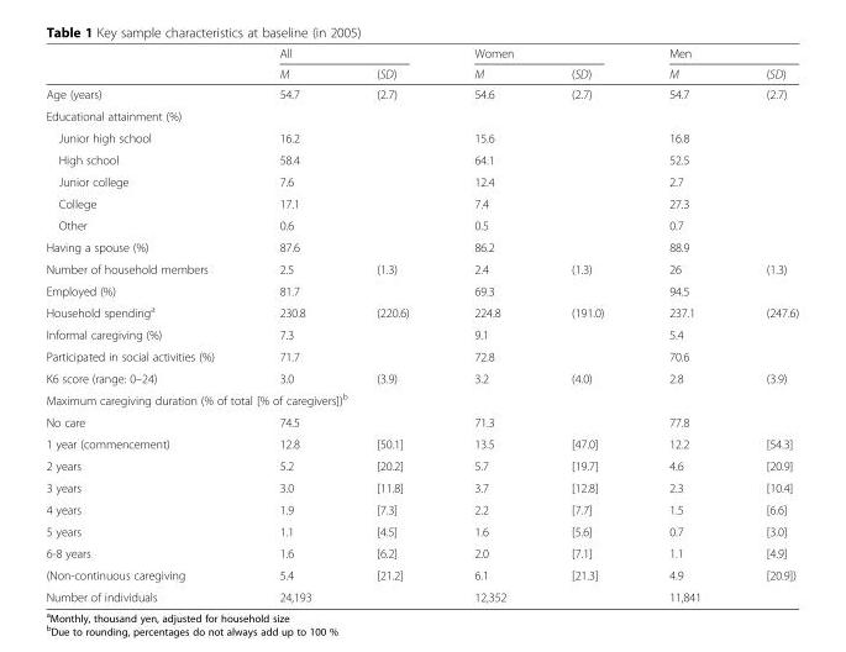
<table><thead><tr><td rowspan="2"></td><td colspan="2">All</td><td colspan="2">Women</td><td colspan="2">Men</td></tr><tr><td>M</td><td>(SD)</td><td>M</td><td>(SD)</td><td>M</td><td>(SD)</td></tr></thead><tbody><tr><td>Age (years)</td><td>54.7</td><td>(2.7)</td><td>54.6</td><td>(2.7)</td><td>54.7</td><td>(2.7)</td></tr><tr><td colspan="7">Educational attainment (%)</td></tr><tr><td>Junior high school</td><td>16.2</td><td></td><td>15.6</td><td></td><td>16.8</td><td></td></tr><tr><td>High school</td><td>58.4</td><td></td><td>64.1</td><td></td><td>52.5</td><td></td></tr><tr><td>Junior college</td><td>7.6</td><td></td><td>12.4</td><td></td><td>2.7</td><td></td></tr><tr><td>College</td><td>17.1</td><td></td><td>7.4</td><td></td><td>27.3</td><td></td></tr><tr><td>Other</td><td>0.6</td><td></td><td>0.5</td><td></td><td>0.7</td><td></td></tr><tr><td>Having a spouse (%)</td><td>87.6</td><td></td><td>86.2</td><td></td><td>88.9</td><td></td></tr><tr><td>Number of household members</td><td>2.5</td><td>(1.3)</td><td>2.4</td><td>(1.3)</td><td>26</td><td>(1.3)</td></tr><tr><td>Employed (%)</td><td>81.7</td><td></td><td>69.3</td><td></td><td>94.5</td><td></td></tr><tr><td>Household spending<sup>a</sup></td><td>230.8</td><td>(220.6)</td><td>224.8</td><td>(191.0)</td><td>237.1</td><td>(247.6)</td></tr><tr><td>Informal caregiving (%)</td><td>7.3</td><td></td><td>9.1</td><td></td><td>5.4</td><td></td></tr><tr><td>Participated in social activities (%)</td><td>71.7</td><td></td><td>72.8</td><td></td><td>70.6</td><td></td></tr><tr><td>K6 score (range: 0–24)</td><td>3.0</td><td>(3.9)</td><td>3.2</td><td>(4.0)</td><td>2.8</td><td>(3.9)</td></tr><tr><td colspan="7">Maximum caregiving duration (% of total [% of caregivers])<sup>b</sup></td></tr><tr><td>No care</td><td>74.5</td><td></td><td>71.3</td><td></td><td>77.8</td><td></td></tr><tr><td>1 year (commencement)</td><td>12.8</td><td>[50.1]</td><td>13.5</td><td>[47.0]</td><td>12.2</td><td>[54.3]</td></tr><tr><td>2 years</td><td>5.2</td><td>[20.2]</td><td>5.7</td><td>[19.7]</td><td>4.6</td><td>[20.9]</td></tr><tr><td>3 years</td><td>3.0</td><td>[11.8]</td><td>3.7</td><td>[12.8]</td><td>2.3</td><td>[10.4]</td></tr><tr><td>4 years</td><td>1.9</td><td>[7.3]</td><td>2.2</td><td>[7.7]</td><td>1.5</td><td>[6.6]</td></tr><tr><td>5 years</td><td>1.1</td><td>[4.5]</td><td>1.6</td><td>[5.6]</td><td>0.7</td><td>[3.0]</td></tr><tr><td>6-8 years</td><td>1.6</td><td>[6.2]</td><td>2.0</td><td>[7.1]</td><td>1.1</td><td>[4.9]</td></tr><tr><td>(Non-continuous caregiving</td><td>5.4</td><td>[21.2]</td><td>6.1</td><td>[21.3]</td><td>4.9</td><td>[20.9])</td></tr><tr><td>Number of individuals</td><td>24,193</td><td></td><td>12,352</td><td></td><td>11,841</td><td></td></tr></tbody></table>